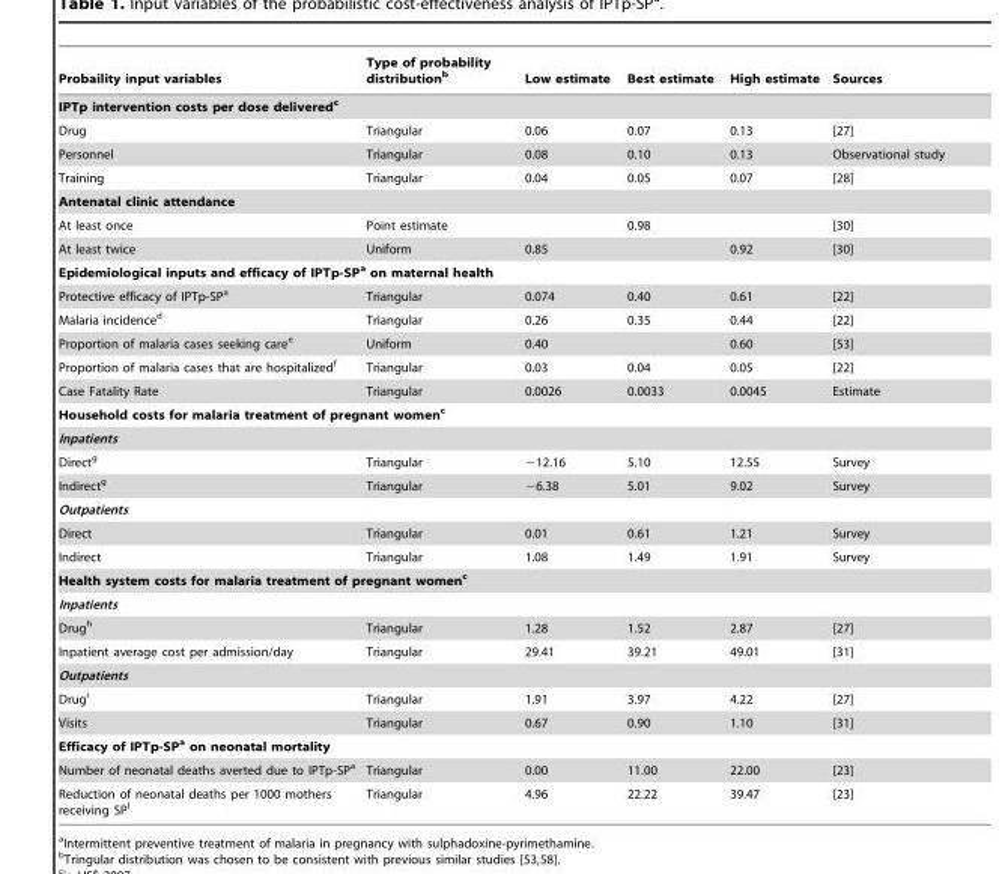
<table><thead><tr><td>Probaility input variables</td><td>Type of probability distribution<sup>b</sup></td><td>Low estimate</td><td>Best estimate</td><td>High estimate</td><td>Sources</td></tr></thead><tbody><tr><td colspan="6">IPTp intervention costs per dose deliveredc</td></tr><tr><td>Drug</td><td>Triangular</td><td>0.06</td><td>0.07</td><td>0.13</td><td>[27]</td></tr><tr><td>Personnel</td><td>Triangular</td><td>0.08</td><td>0.10</td><td>0.13</td><td>Observational study</td></tr><tr><td>Training</td><td>Triangular</td><td>0.04</td><td>0.05</td><td>0.07</td><td>[28]</td></tr><tr><td colspan="6">Antenatal clinic attendance</td></tr><tr><td>At least once</td><td>Point estimate</td><td></td><td>0.98</td><td></td><td>[30]</td></tr><tr><td>At least twice</td><td>Uniform</td><td>0.85</td><td></td><td>0.92</td><td>[30]</td></tr><tr><td colspan="6">Epidemiological inputs and efficacy of IPTp-SPa on maternal health</td></tr><tr><td>Protective efficacy of IPTp-SP<sup>a</sup></td><td>Triangular</td><td>0.074</td><td>0.40</td><td>0.61</td><td>[22]</td></tr><tr><td>Malaria incidence<sup>d</sup></td><td>Triangular</td><td>0.26</td><td>0.35</td><td>0.44</td><td>[22]</td></tr><tr><td>Proportion of malaria cases seeking care<sup>e</sup></td><td>Uniform</td><td>0.40</td><td></td><td>0.60</td><td>[53]</td></tr><tr><td>Proportion of malaria cases that are hospitalized<sup>f</sup></td><td>Triangular</td><td>0.03</td><td>0.04</td><td>0.05</td><td>[22]</td></tr><tr><td>Case Fatality Rate</td><td>Triangular</td><td>0.0026</td><td>0.0033</td><td>0.0045</td><td>Estimate</td></tr><tr><td colspan="6">Household costs for malaria treatment of pregnant womenc</td></tr><tr><td colspan="6">Inpatients</td></tr><tr><td>Direct<sup>g</sup></td><td>Triangular</td><td>−12.16</td><td>5.10</td><td>12.55</td><td>Survey</td></tr><tr><td>Indirect<sup>g</sup></td><td>Triangular</td><td>−6.38</td><td>5.01</td><td>9.02</td><td>Survey</td></tr><tr><td colspan="6">Outpatients</td></tr><tr><td>Direct</td><td>Triangular</td><td>0.01</td><td>0.61</td><td>1.21</td><td>Survey</td></tr><tr><td>Indirect</td><td>Triangular</td><td>1.08</td><td>1.49</td><td>1.91</td><td>Survey</td></tr><tr><td colspan="6">Health system costs for malaria treatment of pregnant womenc</td></tr><tr><td colspan="6">Inpatients</td></tr><tr><td>Drug<sup>h</sup></td><td>Triangular</td><td>1.28</td><td>1.52</td><td>2.87</td><td>[27]</td></tr><tr><td>Inpatient average cost per admission/day</td><td>Triangular</td><td>29.41</td><td>39.21</td><td>49.01</td><td>[31]</td></tr><tr><td colspan="6">Outpatients</td></tr><tr><td>Drug<sup>i</sup></td><td>Triangular</td><td>1.91</td><td>3.97</td><td>4.22</td><td>[27]</td></tr><tr><td>Visits</td><td>Triangular</td><td>0.67</td><td>0.90</td><td>1.10</td><td>[31]</td></tr><tr><td colspan="6">Efficacy of IPTp-SPa on neonatal mortality</td></tr><tr><td>Number of neonatal deaths averted due to IPTp-SP<sup>a</sup></td><td>Triangular</td><td>0.00</td><td>11.00</td><td>22.00</td><td>[23]</td></tr><tr><td>Reduction of neonatal deaths per 1000 mothers receiving SP<sup>l</sup></td><td>Triangular</td><td>4.96</td><td>22.22</td><td>39.47</td><td>[23]</td></tr></tbody></table>